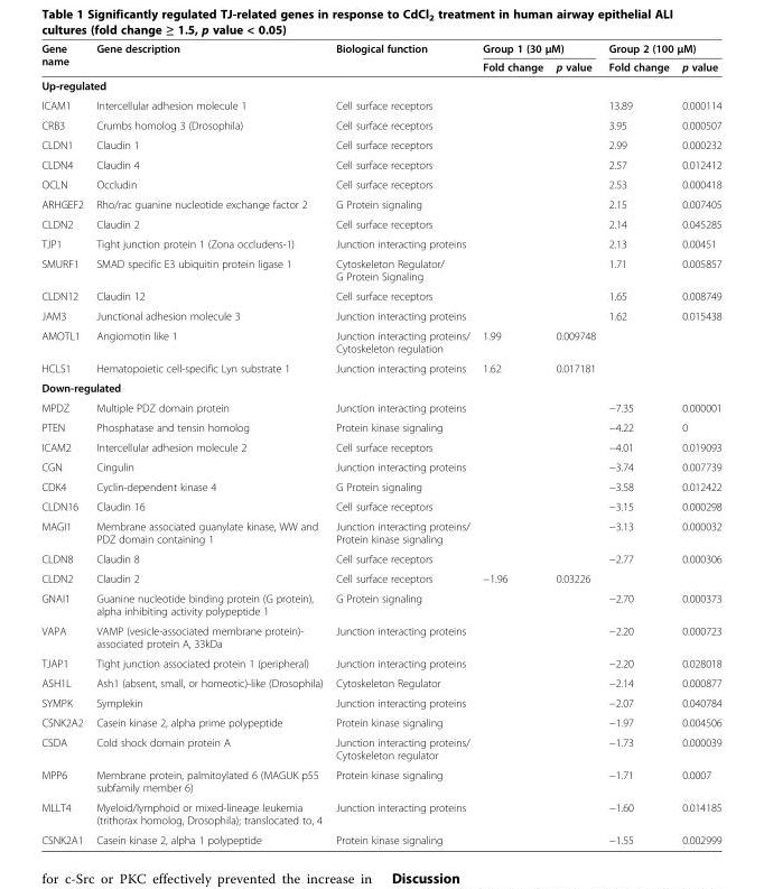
<table><thead><tr><td rowspan="2">Gene name</td><td rowspan="2">Gene description</td><td rowspan="2">Biological function</td><td colspan="2">Group 1 (30 μM)</td><td colspan="2">Group 2 (100 μM)</td></tr><tr><td>Fold change</td><td>p value</td><td>Fold change</td><td>p value</td></tr></thead><tbody><tr><td colspan="7">Up-regulated</td></tr><tr><td>ICAM1</td><td>Intercellular adhesion molecule 1</td><td>Cell surface receptors</td><td></td><td></td><td>13.89</td><td>0.000114</td></tr><tr><td>CRB3</td><td>Crumbs homolog 3 (Drosophila)</td><td>Cell surface receptors</td><td></td><td></td><td>3.95</td><td>0.000507</td></tr><tr><td>CLDN1</td><td>Claudin 1</td><td>Cell surface receptors</td><td></td><td></td><td>2.99</td><td>0.000232</td></tr><tr><td>CLDN4</td><td>Claudin 4</td><td>Cell surface receptors</td><td></td><td></td><td>2.57</td><td>0.012412</td></tr><tr><td>OCLN</td><td>Occludin</td><td>Cell surface receptors</td><td></td><td></td><td>2.53</td><td>0.000418</td></tr><tr><td>ARHGEF2</td><td>Rho/rac guanine nucleotide exchange factor 2</td><td>G Protein signaling</td><td></td><td></td><td>2.15</td><td>0.007405</td></tr><tr><td>CLDN2</td><td>Claudin 2</td><td>Cell surface receptors</td><td></td><td></td><td>2.14</td><td>0.045285</td></tr><tr><td>TJP1</td><td>Tight junction protein 1 (Zona occludens-1)</td><td>Junction interacting proteins</td><td></td><td></td><td>2.13</td><td>0.00451</td></tr><tr><td>SMURF1</td><td>SMAD specific E3 ubiquitin protein ligase 1</td><td>Cytoskeleton Regulator/ G Protein Signaling</td><td></td><td></td><td>1.71</td><td>0.005857</td></tr><tr><td>CLDN12</td><td>Claudin 12</td><td>Cell surface receptors</td><td></td><td></td><td>1.65</td><td>0.008749</td></tr><tr><td>JAM3</td><td>Junctional adhesion molecule 3</td><td>Junction interacting proteins</td><td></td><td></td><td>1.62</td><td>0.015438</td></tr><tr><td>AMOTL1</td><td>Angiomotin like 1</td><td>Junction interacting proteins/ Cytoskeleton regulation</td><td>1.99</td><td>0.009748</td><td></td><td></td></tr><tr><td>HCLS1</td><td>Hematopoietic cell-specific Lyn substrate 1</td><td>Junction interacting proteins</td><td>1.62</td><td>0.017181</td><td></td><td></td></tr><tr><td colspan="7">Down-regulated</td></tr><tr><td>MPDZ</td><td>Multiple PDZ domain protein</td><td>Junction interacting proteins</td><td></td><td></td><td>−7.35</td><td>0.000001</td></tr><tr><td>PTEN</td><td>Phosphatase and tensin homolog</td><td>Protein kinase signaling</td><td></td><td></td><td>−4.22</td><td>0</td></tr><tr><td>ICAM2</td><td>Intercellular adhesion molecule 2</td><td>Cell surface receptors</td><td></td><td></td><td>−4.01</td><td>0.019093</td></tr><tr><td>CGN</td><td>Cingulin</td><td>Junction interacting proteins</td><td></td><td></td><td>−3.74</td><td>0.007739</td></tr><tr><td>CDK4</td><td>Cyclin-dependent kinase 4</td><td>G Protein signaling</td><td></td><td></td><td>−3.58</td><td>0.012422</td></tr><tr><td>CLDN16</td><td>Claudin 16</td><td>Cell surface receptors</td><td></td><td></td><td>−3.15</td><td>0.000298</td></tr><tr><td>MAGI1</td><td>Membrane associated guanylate kinase, WW and PDZ domain containing 1</td><td>Junction interacting proteins/ Protein kinase signaling</td><td></td><td></td><td>−3.13</td><td>0.000032</td></tr><tr><td>CLDN8</td><td>Claudin 8</td><td>Cell surface receptors</td><td></td><td></td><td>−2.77</td><td>0.000306</td></tr><tr><td>CLDN2</td><td>Claudin 2</td><td>Cell surface receptors</td><td>−1.96</td><td>0.03226</td><td></td><td></td></tr><tr><td>GNAI1</td><td>Guanine nucleotide binding protein (G protein), alpha inhibiting activity polypeptide 1</td><td>G Protein signaling</td><td></td><td></td><td>−2.70</td><td>0.000373</td></tr><tr><td>VAPA</td><td>VAMP (vesicle-associated membrane protein)- associated protein A, 33kDa</td><td>Junction interacting proteins</td><td></td><td></td><td>−2.20</td><td>0.000723</td></tr><tr><td>TJAP1</td><td>Tight junction associated protein 1 (peripheral)</td><td>Junction interacting proteins</td><td></td><td></td><td>−2.20</td><td>0.028018</td></tr><tr><td>ASH1L</td><td>Ash1 (absent, small, or homeotic)-like (Drosophila)</td><td>Cytoskeleton Regulator</td><td></td><td></td><td>−2.14</td><td>0.000877</td></tr><tr><td>SYMPK</td><td>Symplekin</td><td>Junction interacting proteins</td><td></td><td></td><td>−2.07</td><td>0.040784</td></tr><tr><td>CSNK2A2</td><td>Casein kinase 2, alpha prime polypeptide</td><td>Protein kinase signaling</td><td></td><td></td><td>−1.97</td><td>0.004506</td></tr><tr><td>CSDA</td><td>Cold shock domain protein A</td><td>Junction interacting proteins/ Cytoskeleton regulator</td><td></td><td></td><td>−1.73</td><td>0.000039</td></tr><tr><td>MPP6</td><td>Membrane protein, palmitoylated 6 (MAGUK p55 subfamily member 6)</td><td>Protein kinase signaling</td><td></td><td></td><td>−1.71</td><td>0.0007</td></tr><tr><td>MLLT4</td><td>Myeloid/lymphoid or mixed-lineage leukemia (trithorax homolog, Drosophila); translocated to, 4</td><td>Junction interacting proteins</td><td></td><td></td><td>−1.60</td><td>0.014185</td></tr><tr><td>CSNK2A1</td><td>Casein kinase 2, alpha 1 polypeptide</td><td>Protein kinase signaling</td><td></td><td></td><td>−1.55</td><td>0.002999</td></tr></tbody></table>